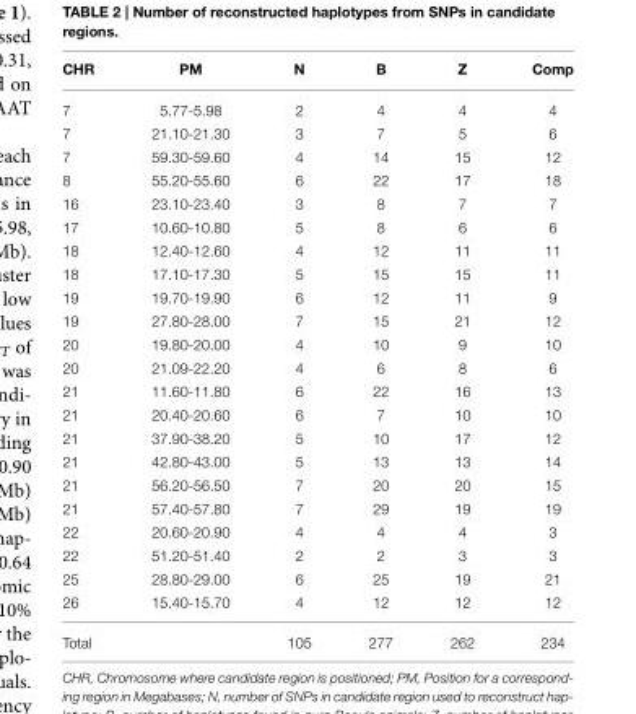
<table><thead><tr><td>CHR</td><td>PM</td><td>N</td><td>B</td><td>Z</td><td>Comp</td></tr></thead><tbody><tr><td>7</td><td>5.77-5.98</td><td>2</td><td>4</td><td>4</td><td>4</td></tr><tr><td>7</td><td>21.10-21.30</td><td>3</td><td>7</td><td>5</td><td>6</td></tr><tr><td>7</td><td>59.30-59.60</td><td>4</td><td>14</td><td>15</td><td>12</td></tr><tr><td>8</td><td>55.20-55.60</td><td>6</td><td>22</td><td>17</td><td>18</td></tr><tr><td>16</td><td>23.10-23.40</td><td>3</td><td>8</td><td>7</td><td>7</td></tr><tr><td>17</td><td>10.60-10.80</td><td>5</td><td>8</td><td>6</td><td>6</td></tr><tr><td>18</td><td>12.40-12.60</td><td>4</td><td>12</td><td>11</td><td>11</td></tr><tr><td>18</td><td>17.10-17.30</td><td>5</td><td>15</td><td>15</td><td>11</td></tr><tr><td>19</td><td>19.70-19.90</td><td>6</td><td>12</td><td>11</td><td>9</td></tr><tr><td>19</td><td>27.80-28.00</td><td>7</td><td>15</td><td>21</td><td>12</td></tr><tr><td>20</td><td>19.80-20.00</td><td>4</td><td>10</td><td>9</td><td>10</td></tr><tr><td>20</td><td>21.09-22.20</td><td>4</td><td>6</td><td>8</td><td>6</td></tr><tr><td>21</td><td>11.60-11.80</td><td>6</td><td>22</td><td>16</td><td>13</td></tr><tr><td>21</td><td>20.40-20.60</td><td>6</td><td>7</td><td>10</td><td>10</td></tr><tr><td>21</td><td>37.90-38.20</td><td>5</td><td>10</td><td>17</td><td>12</td></tr><tr><td>21</td><td>42.80-43.00</td><td>5</td><td>13</td><td>13</td><td>14</td></tr><tr><td>21</td><td>56.20-56.50</td><td>7</td><td>20</td><td>20</td><td>15</td></tr><tr><td>21</td><td>57.40-57.80</td><td>7</td><td>29</td><td>19</td><td>19</td></tr><tr><td>22</td><td>20.60-20.90</td><td>4</td><td>4</td><td>4</td><td>3</td></tr><tr><td>22</td><td>51.20-51.40</td><td>2</td><td>2</td><td>3</td><td>3</td></tr><tr><td>25</td><td>28.80-29.00</td><td>6</td><td>25</td><td>19</td><td>21</td></tr><tr><td>26</td><td>15.40-15.70</td><td>4</td><td>12</td><td>12</td><td>12</td></tr><tr><td>Total</td><td></td><td>105</td><td>277</td><td>262</td><td>234</td></tr></tbody></table>